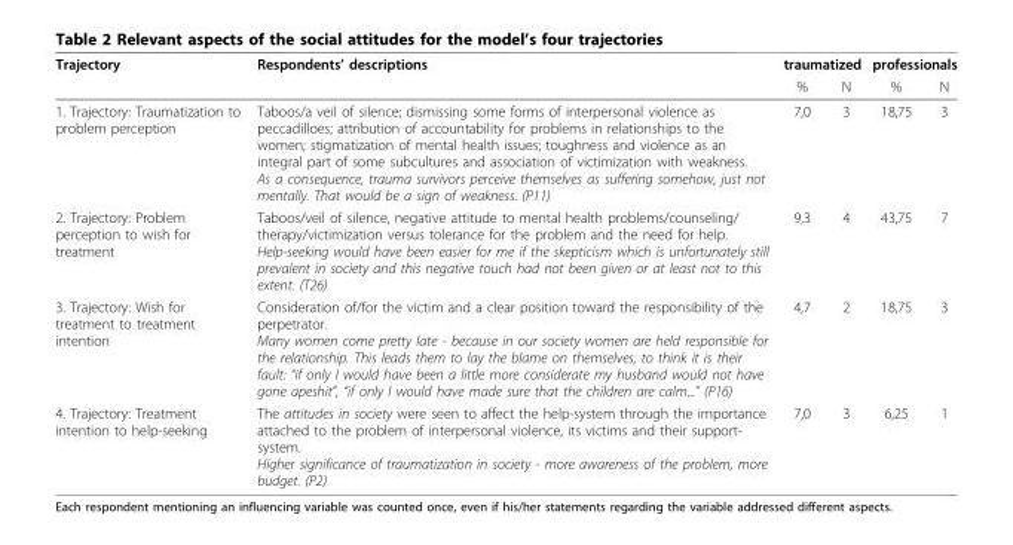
<table><thead><tr><td rowspan="2">Trajectory</td><td rowspan="2">Respondents’ descriptions</td><td colspan="2">traumatized</td><td colspan="2">professionals</td></tr><tr><td>%</td><td>N</td><td>%</td><td>N</td></tr></thead><tbody><tr><td>1. Trajectory: Traumatization to problem perception</td><td>Taboos/a veil of silence; dismissing some forms of interpersonal violence as peccadilloes; attribution of accountability for problems in relationships to the women; stigmatization of mental health issues; toughness and violence as an integral part of some subcultures and association of victimization with weakness. As a consequence, trauma survivors perceive themselves as suffering somehow, just not mentally. That would be a sign of weakness. (P11)</td><td>7,0</td><td>3</td><td>18,75</td><td>3</td></tr><tr><td>2. Trajectory: Problem perception to wish for treatment</td><td>Taboos/veil of silence, negative attitude to mental health problems/counseling/ therapy/victimization versus tolerance for the problem and the need for help. Help-seeking would have been easier for me if the skepticism which is unfortunately still prevalent in society and this negative touch had not been given or at least not to this extent. (T26)</td><td>9,3</td><td>4</td><td>43,75</td><td>7</td></tr><tr><td>3. Trajectory: Wish for treatment to treatment intention</td><td>Consideration of/for the victim and a clear position toward the responsibility of the perpetrator. Many women come pretty late - because in our society women are held responsible for the relationship. This leads them to lay the blame on themselves, to think it is their fault: “if only I would have been a little more considerate my husband would not have gone apeshit”, “if only I would have made sure that the children are calm...” (P16)</td><td>4,7</td><td>2</td><td>18,75</td><td>3</td></tr><tr><td>4. Trajectory: Treatment intention to help-seeking</td><td>The attitudes in society were seen to affect the help-system through the importance attached to the problem of interpersonal violence, its victims and their support- system. Higher significance of traumatization in society - more awareness of the problem, more budget. (P2)</td><td>7,0</td><td>3</td><td>6,25</td><td>1</td></tr></tbody></table>